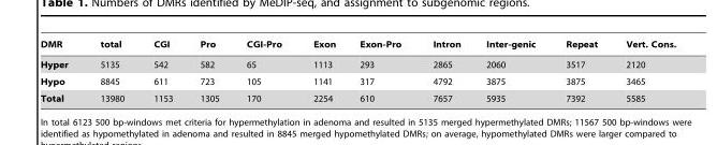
<table><thead><tr><td>DMR</td><td>total</td><td>CGI</td><td>Pro</td><td>CGI-Pro</td><td>Exon</td><td>Exon-Pro</td><td>Intron</td><td>Inter-genic</td><td>Repeat</td><td>Vert. Cons.</td></tr></thead><tbody><tr><td>Hyper</td><td>5135</td><td>542</td><td>582</td><td>65</td><td>1113</td><td>293</td><td>2865</td><td>2060</td><td>3517</td><td>2120</td></tr><tr><td>Hypo</td><td>8845</td><td>611</td><td>723</td><td>105</td><td>1141</td><td>317</td><td>4792</td><td>3875</td><td>3875</td><td>3465</td></tr><tr><td>Total</td><td>13980</td><td>1153</td><td>1305</td><td>170</td><td>2254</td><td>610</td><td>7657</td><td>5935</td><td>7392</td><td>5585</td></tr></tbody></table>